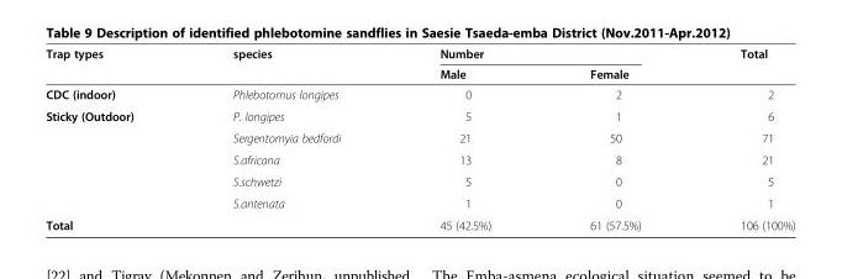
<table><thead><tr><td rowspan="2">Trap types</td><td rowspan="2">species</td><td colspan="2">Number</td><td rowspan="2">Total</td></tr><tr><td>Male</td><td>Female</td></tr></thead><tbody><tr><td>CDC (indoor)</td><td>Phlebotomus longipes</td><td>0</td><td>2</td><td>2</td></tr><tr><td rowspan="5">Sticky (Outdoor)</td><td>P. longipes</td><td>5</td><td>1</td><td>6</td></tr><tr><td>Sergentomyia bedfordi</td><td>21</td><td>50</td><td>71</td></tr><tr><td>S.africana</td><td>13</td><td>8</td><td>21</td></tr><tr><td>S.schwetzi</td><td>5</td><td>0</td><td>5</td></tr><tr><td>S.antenata</td><td>1</td><td>0</td><td>1</td></tr><tr><td colspan="2">Total</td><td>45 (42.5%)</td><td>61 (57.5%)</td><td>106 (100%)</td></tr></tbody></table>